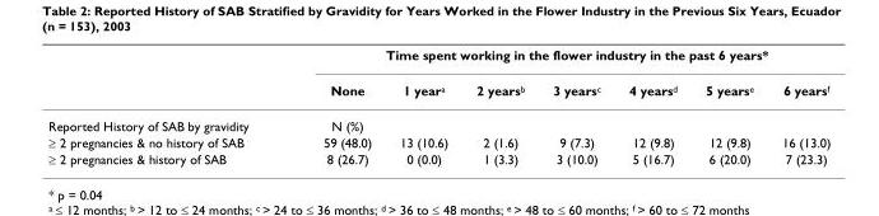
<table><thead><tr><td rowspan="2"></td><td colspan="7">Time spent working in the flower industry in the past 6 years*</td></tr><tr><td>None</td><td>1 year<sup>a</sup></td><td>2 years<sup>b</sup></td><td>3 years<sup>c</sup></td><td>4 years<sup>d</sup></td><td>5 years<sup>e</sup></td><td>6 years<sup>f</sup></td></tr></thead><tbody><tr><td>Reported History of SAB by gravidity</td><td>N (%)</td><td></td><td></td><td></td><td></td><td></td><td></td></tr><tr><td>≥ 2 pregnancies &amp; no history of SAB</td><td>59 (48.0)</td><td>13 (10.6)</td><td>2 (1.6)</td><td>9 (7.3)</td><td>12 (9.8)</td><td>12 (9.8)</td><td>16 (13.0)</td></tr><tr><td>≥ 2 pregnancies &amp; history of SAB</td><td>8 (26.7)</td><td>0 (0.0)</td><td>1 (3.3)</td><td>3 (10.0)</td><td>5 (16.7)</td><td>6 (20.0)</td><td>7 (23.3)</td></tr></tbody></table>